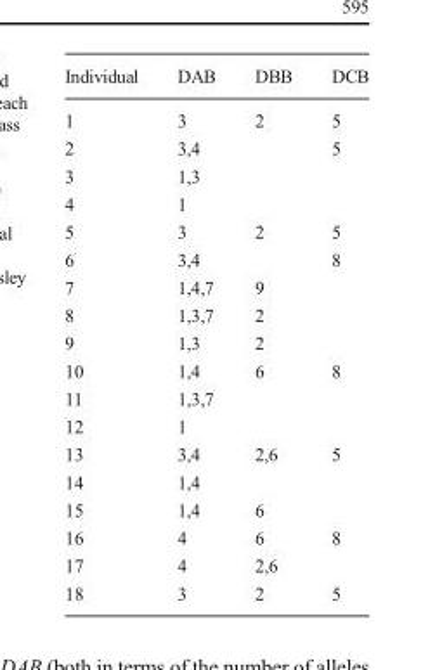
<table><thead><tr><td>Individual</td><td>DAB</td><td>DBB</td><td>DCB</td></tr></thead><tbody><tr><td>1</td><td>3</td><td>2</td><td>5</td></tr><tr><td>2</td><td>3,4</td><td></td><td>5</td></tr><tr><td>3</td><td>1,3</td><td></td><td></td></tr><tr><td>4</td><td>1</td><td></td><td></td></tr><tr><td>5</td><td>3</td><td>2</td><td>5</td></tr><tr><td>6</td><td>3,4</td><td></td><td>8</td></tr><tr><td>7</td><td>1,4,7</td><td>9</td><td></td></tr><tr><td>8</td><td>1,3,7</td><td>2</td><td></td></tr><tr><td>9</td><td>1,3</td><td>2</td><td></td></tr><tr><td>10</td><td>1,4</td><td>6</td><td>8</td></tr><tr><td>11</td><td>1,3,7</td><td></td><td></td></tr><tr><td>12</td><td>1</td><td></td><td></td></tr><tr><td>13</td><td>3,4</td><td>2,6</td><td>5</td></tr><tr><td>14</td><td>1,4</td><td></td><td></td></tr><tr><td>15</td><td>1,4</td><td>6</td><td></td></tr><tr><td>16</td><td>4</td><td>6</td><td>8</td></tr><tr><td>17</td><td>4</td><td>2,6</td><td></td></tr><tr><td>18</td><td>3</td><td>2</td><td>5</td></tr></tbody></table>